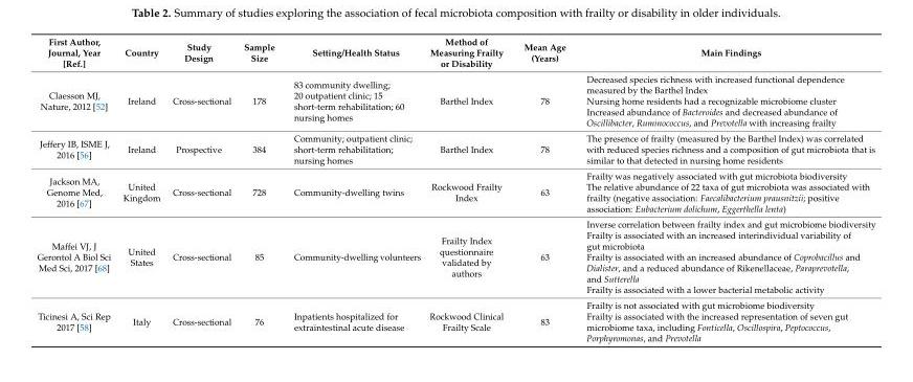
<table><thead><tr><td>First Author, Journal, Year [Ref.]</td><td>Country</td><td>Study Design</td><td>Sample Size</td><td>Setting/Health Status</td><td>Method of Measuring Frailty or Disability</td><td>Mean Age (Years)</td><td>Main Findings</td></tr></thead><tbody><tr><td>Claesson MJ, Nature, 2012 [52]</td><td>Ireland</td><td>Cross-sectional</td><td>178</td><td>83 community dwelling; 20 outpatient clinic; 15 short-term rehabilitation; 60 nursing homes</td><td>Barthel Index</td><td>78</td><td>Decreased species richness with increased functional dependence measured by the Barthel Index Nursing home residents had a recognizable microbiome cluster Increased abundance of Bacteroides and decreased abundance of Oscillibacter, Ruminococcus, and Prevotella with increasing frailty</td></tr><tr><td>Jeffery IB, ISME J, 2016 [56]</td><td>Ireland</td><td>Prospective</td><td>384</td><td>Community; outpatient clinic; short-term rehabilitation; nursing homes</td><td>Barthel Index</td><td>78</td><td>The presence of frailty (measured by the Barthel Index) was correlated with reduced species richness and a composition of gut microbiota that is similar to that detected in nursing home residents</td></tr><tr><td>Jackson MA, Genome Med, 2016 [67]</td><td>United Kingdom</td><td>Cross-sectional</td><td>728</td><td>Community-dwelling twins</td><td>Rockwood Frailty Index</td><td>63</td><td>Frailty was negatively associated with gut microbiota biodiversity The relative abundance of 22 taxa of gut microbiota was associated with frailty (negative association: Faecalibacterium prausnitzii; positive association: Eubacterium dolichum, Eggerthella lenta)</td></tr><tr><td>Maffei VJ, J Gerontol A Biol Sci Med Sci, 2017 [68]</td><td>United States</td><td>Cross-sectional</td><td>85</td><td>Community-dwelling volunteers</td><td>Frailty Index questionnaire validated by authors</td><td>63</td><td>Inverse correlation between frailty index and gut microbiome biodiversity Frailty is associated with an increased interindividual variability of gut microbiota Frailty is associated with an increased abundance of Coprobacillus and Dialister, and a reduced abundance of Rikenellaceae, Paraprevotella, and Sutterella Frailty is associated with a lower bacterial metabolic activity</td></tr><tr><td>Ticinesi A, Sci Rep 2017 [58]</td><td>Italy</td><td>Cross-sectional</td><td>76</td><td>Inpatients hospitalized for extraintestinal acute disease</td><td>Rockwood Clinical Frailty Scale</td><td>83</td><td>Frailty is not associated with gut microbiome biodiversity Frailty is associated with the increased representation of seven gut microbiome taxa, including Fonticella, Oscillospira, Peptococcus, Porphyromonas, and Prevotella</td></tr></tbody></table>